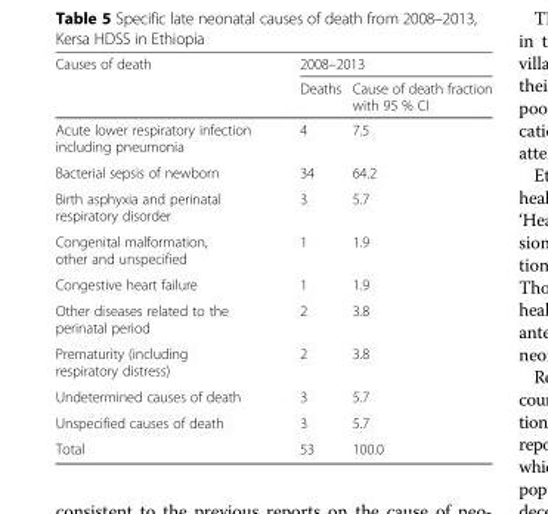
<table><thead><tr><td rowspan="2">Causes of death</td><td colspan="2">2008–2013</td></tr><tr><td>Deaths</td><td>Cause of death fraction with 95 % CI</td></tr></thead><tbody><tr><td>Acute lower respiratory infection including pneumonia</td><td>4</td><td>7.5</td></tr><tr><td>Bacterial sepsis of newborn</td><td>34</td><td>64.2</td></tr><tr><td>Birth asphyxia and perinatal respiratory disorder</td><td>3</td><td>5.7</td></tr><tr><td>Congenital malformation, other and unspecified</td><td>1</td><td>1.9</td></tr><tr><td>Congestive heart failure</td><td>1</td><td>1.9</td></tr><tr><td>Other diseases related to the perinatal period</td><td>2</td><td>3.8</td></tr><tr><td>Prematurity (including respiratory distress)</td><td>2</td><td>3.8</td></tr><tr><td>Undetermined causes of death</td><td>3</td><td>5.7</td></tr><tr><td>Unspecified causes of death</td><td>3</td><td>5.7</td></tr><tr><td>Total</td><td>53</td><td>100.0</td></tr></tbody></table>